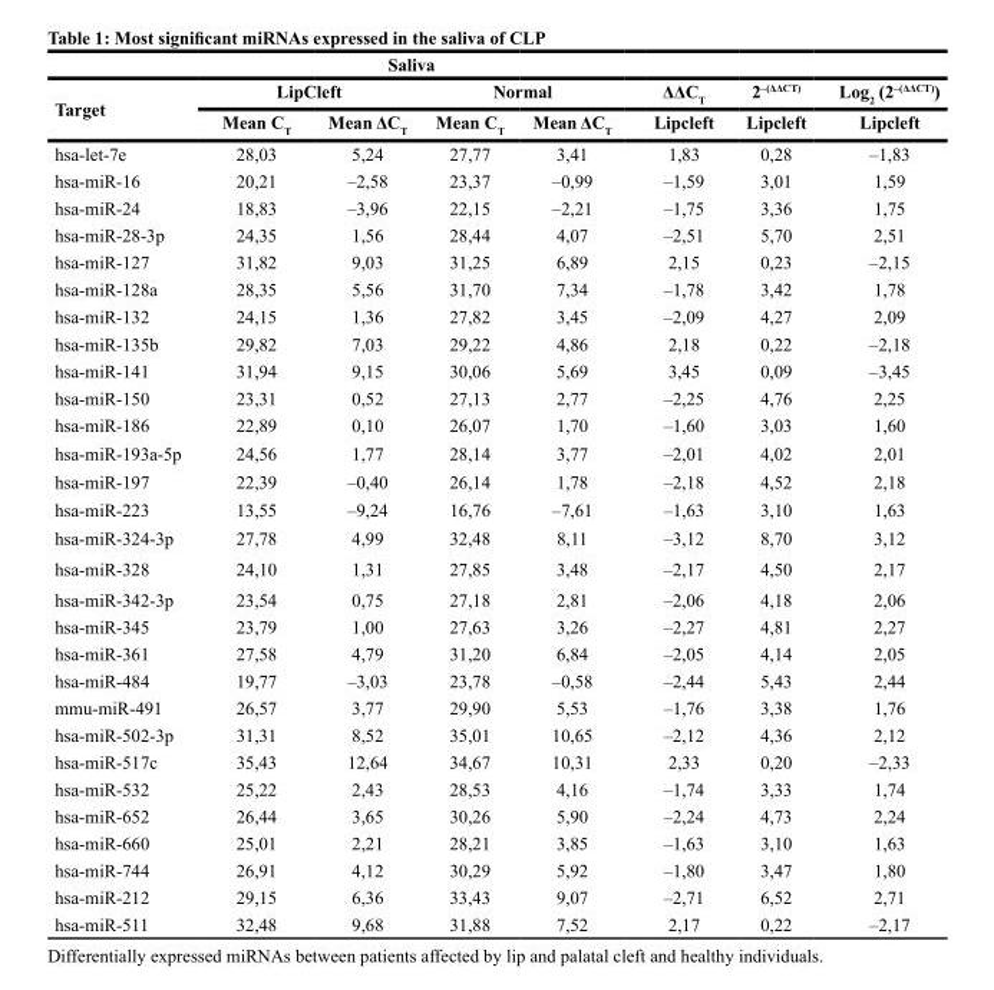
<table><thead><tr><td rowspan="3">Target</td><td colspan="4">Saliva</td><td rowspan="3">ΔΔCT Lipcleft</td><td rowspan="3">2–(ΔΔCT) Lipcleft</td><td rowspan="3">Log2 (2–(ΔΔCT)) Lipcleft</td></tr><tr><td colspan="2">LipCleft</td><td colspan="2">Normal</td></tr><tr><td>Mean C<sub>T</sub></td><td>Mean ΔC<sub>T</sub></td><td>Mean C<sub>T</sub></td><td>Mean ΔC<sub>T</sub></td></tr></thead><tbody><tr><td>hsa-let-7e</td><td>28,03</td><td>5,24</td><td>27,77</td><td>3,41</td><td>1,83</td><td>0,28</td><td>–1,83</td></tr><tr><td>hsa-miR-16</td><td>20,21</td><td>–2,58</td><td>23,37</td><td>–0,99</td><td>–1,59</td><td>3,01</td><td>1,59</td></tr><tr><td>hsa-miR-24</td><td>18,83</td><td>–3,96</td><td>22,15</td><td>–2,21</td><td>–1,75</td><td>3,36</td><td>1,75</td></tr><tr><td>hsa-miR-28-3p</td><td>24,35</td><td>1,56</td><td>28,44</td><td>4,07</td><td>–2,51</td><td>5,70</td><td>2,51</td></tr><tr><td>hsa-miR-127</td><td>31,82</td><td>9,03</td><td>31,25</td><td>6,89</td><td>2,15</td><td>0,23</td><td>–2,15</td></tr><tr><td>hsa-miR-128a</td><td>28,35</td><td>5,56</td><td>31,70</td><td>7,34</td><td>–1,78</td><td>3,42</td><td>1,78</td></tr><tr><td>hsa-miR-132</td><td>24,15</td><td>1,36</td><td>27,82</td><td>3,45</td><td>–2,09</td><td>4,27</td><td>2,09</td></tr><tr><td>hsa-miR-135b</td><td>29,82</td><td>7,03</td><td>29,22</td><td>4,86</td><td>2,18</td><td>0,22</td><td>–2,18</td></tr><tr><td>hsa-miR-141</td><td>31,94</td><td>9,15</td><td>30,06</td><td>5,69</td><td>3,45</td><td>0,09</td><td>–3,45</td></tr><tr><td>hsa-miR-150</td><td>23,31</td><td>0,52</td><td>27,13</td><td>2,77</td><td>–2,25</td><td>4,76</td><td>2,25</td></tr><tr><td>hsa-miR-186</td><td>22,89</td><td>0,10</td><td>26,07</td><td>1,70</td><td>–1,60</td><td>3,03</td><td>1,60</td></tr><tr><td>hsa-miR-193a-5p</td><td>24,56</td><td>1,77</td><td>28,14</td><td>3,77</td><td>–2,01</td><td>4,02</td><td>2,01</td></tr><tr><td>hsa-miR-197</td><td>22,39</td><td>–0,40</td><td>26,14</td><td>1,78</td><td>–2,18</td><td>4,52</td><td>2,18</td></tr><tr><td>hsa-miR-223</td><td>13,55</td><td>–9,24</td><td>16,76</td><td>–7,61</td><td>–1,63</td><td>3,10</td><td>1,63</td></tr><tr><td>hsa-miR-324-3p</td><td>27,78</td><td>4,99</td><td>32,48</td><td>8,11</td><td>–3,12</td><td>8,70</td><td>3,12</td></tr><tr><td>hsa-miR-328</td><td>24,10</td><td>1,31</td><td>27,85</td><td>3,48</td><td>–2,17</td><td>4,50</td><td>2,17</td></tr><tr><td>hsa-miR-342-3p</td><td>23,54</td><td>0,75</td><td>27,18</td><td>2,81</td><td>–2,06</td><td>4,18</td><td>2,06</td></tr><tr><td>hsa-miR-345</td><td>23,79</td><td>1,00</td><td>27,63</td><td>3,26</td><td>–2,27</td><td>4,81</td><td>2,27</td></tr><tr><td>hsa-miR-361</td><td>27,58</td><td>4,79</td><td>31,20</td><td>6,84</td><td>–2,05</td><td>4,14</td><td>2,05</td></tr><tr><td>hsa-miR-484</td><td>19,77</td><td>–3,03</td><td>23,78</td><td>–0,58</td><td>–2,44</td><td>5,43</td><td>2,44</td></tr><tr><td>mmu-miR-491</td><td>26,57</td><td>3,77</td><td>29,90</td><td>5,53</td><td>–1,76</td><td>3,38</td><td>1,76</td></tr><tr><td>hsa-miR-502-3p</td><td>31,31</td><td>8,52</td><td>35,01</td><td>10,65</td><td>–2,12</td><td>4,36</td><td>2,12</td></tr><tr><td>hsa-miR-517c</td><td>35,43</td><td>12,64</td><td>34,67</td><td>10,31</td><td>2,33</td><td>0,20</td><td>–2,33</td></tr><tr><td>hsa-miR-532</td><td>25,22</td><td>2,43</td><td>28,53</td><td>4,16</td><td>–1,74</td><td>3,33</td><td>1,74</td></tr><tr><td>hsa-miR-652</td><td>26,44</td><td>3,65</td><td>30,26</td><td>5,90</td><td>–2,24</td><td>4,73</td><td>2,24</td></tr><tr><td>hsa-miR-660</td><td>25,01</td><td>2,21</td><td>28,21</td><td>3,85</td><td>–1,63</td><td>3,10</td><td>1,63</td></tr><tr><td>hsa-miR-744</td><td>26,91</td><td>4,12</td><td>30,29</td><td>5,92</td><td>–1,80</td><td>3,47</td><td>1,80</td></tr><tr><td>hsa-miR-212</td><td>29,15</td><td>6,36</td><td>33,43</td><td>9,07</td><td>–2,71</td><td>6,52</td><td>2,71</td></tr><tr><td>hsa-miR-511</td><td>32,48</td><td>9,68</td><td>31,88</td><td>7,52</td><td>2,17</td><td>0,22</td><td>–2,17</td></tr></tbody></table>